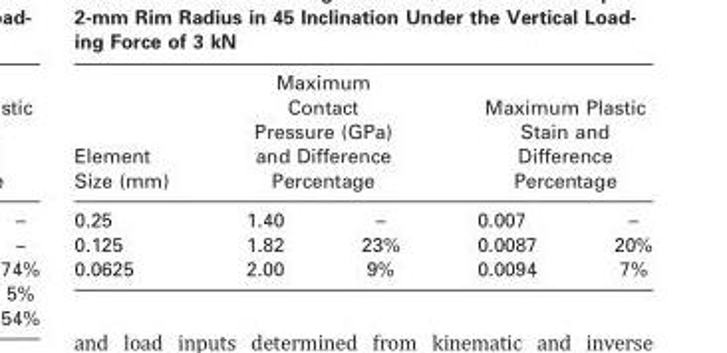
<table><thead><tr><td rowspan="2">Element Size (mm) 0.25</td><td colspan="2">Maximum Contact Pressure (GPa) and Difference Percentage</td><td colspan="2">Maximum Plastic Stain and Difference Percentage</td></tr><tr><td>1.40</td><td>–</td><td>0.007</td><td>–</td></tr></thead><tbody><tr><td>0.125</td><td>1.82</td><td>23%</td><td>0.0087</td><td>20%</td></tr><tr><td>0.0625</td><td>2.00</td><td>9%</td><td>0.0094</td><td>7%</td></tr></tbody></table>